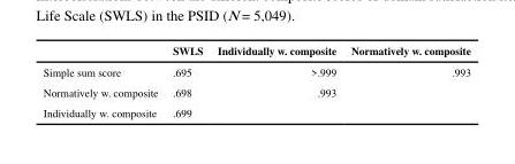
<table><thead><tr><td></td><td>SWLS</td><td>Individually w. composite</td><td>Normatively w. composite</td></tr></thead><tbody><tr><td>Simple sum score</td><td>.695</td><td>&gt;.999</td><td>.993</td></tr><tr><td>Normatively w. composite</td><td>.698</td><td>.993</td><td></td></tr><tr><td>Individually w. composite</td><td>.699</td><td></td><td></td></tr></tbody></table>